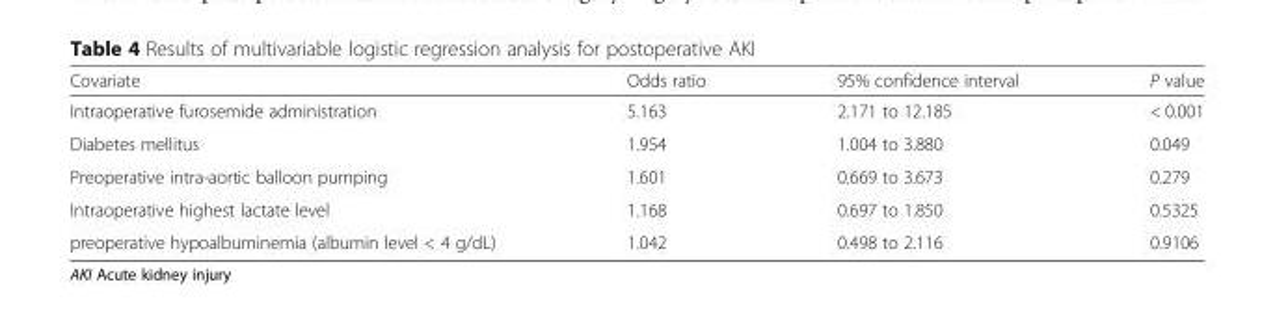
<table><thead><tr><td>Covariate</td><td>Odds ratio</td><td>95% confidence interval</td><td>P value</td></tr></thead><tbody><tr><td>Intraoperative furosemide administration</td><td>5.163</td><td>2.171 to 12.185</td><td>&lt; 0.001</td></tr><tr><td>Diabetes mellitus</td><td>1.954</td><td>1.004 to 3.880</td><td>0.049</td></tr><tr><td>Preoperative intra-aortic balloon pumping</td><td>1.601</td><td>0.669 to 3.673</td><td>0.279</td></tr><tr><td>Intraoperative highest lactate level</td><td>1.168</td><td>0.697 to 1.850</td><td>0.5325</td></tr><tr><td>preoperative hypoalbuminemia (albumin level &lt; 4 g/dL)</td><td>1.042</td><td>0.498 to 2.116</td><td>0.9106</td></tr></tbody></table>